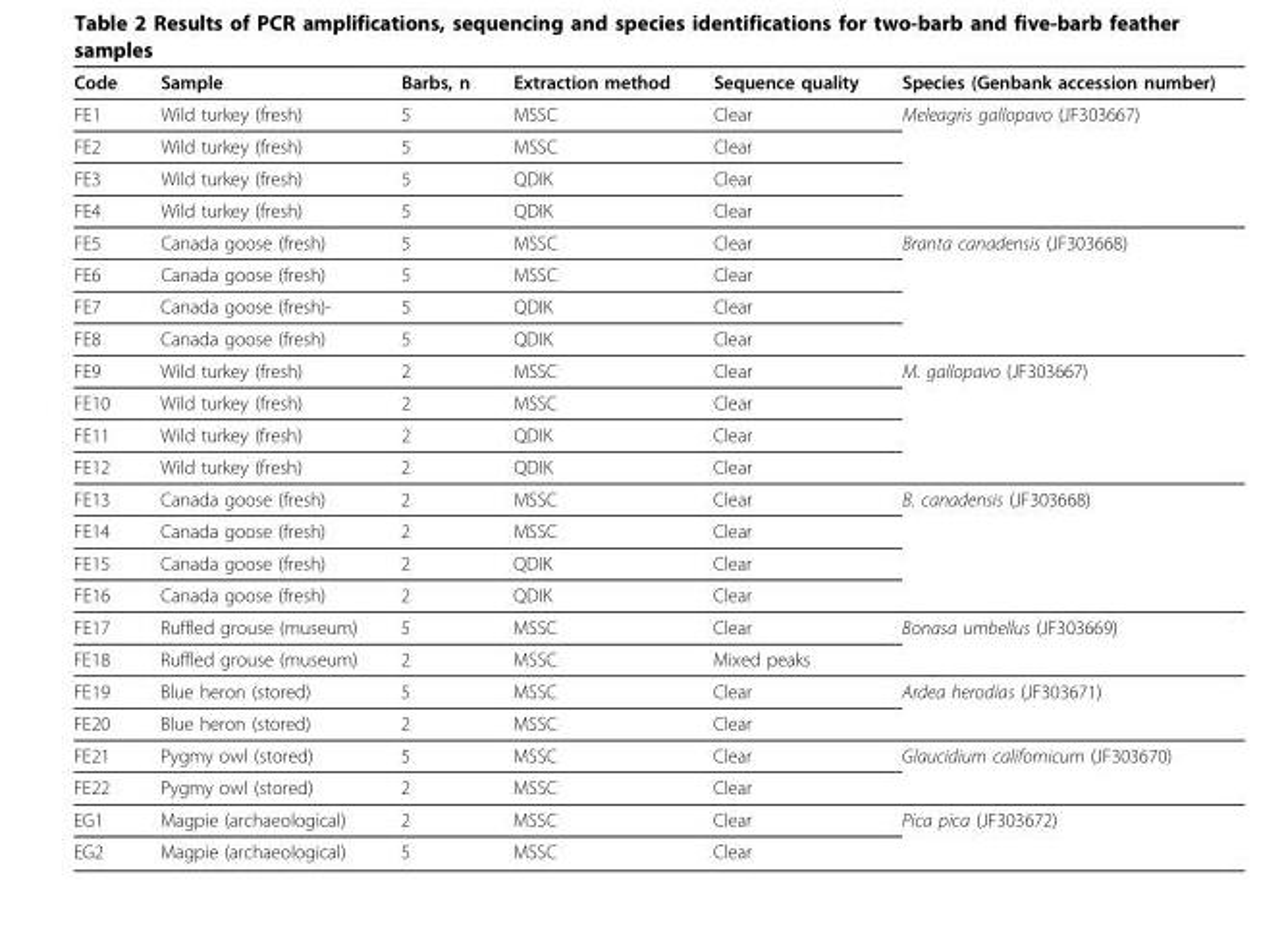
<table><thead><tr><td>Code</td><td>Sample</td><td>Barbs, n</td><td>Extraction method</td><td>Sequence quality</td><td>Species (Genbank accession number)</td></tr></thead><tbody><tr><td>FE1</td><td>Wild turkey (fresh)</td><td>5</td><td>MSSC</td><td>Clear</td><td>Meleagris gallopavo (JF303667)</td></tr><tr><td>FE2</td><td>Wild turkey (fresh)</td><td>5</td><td>MSSC</td><td>Clear</td><td></td></tr><tr><td>FE3</td><td>Wild turkey (fresh)</td><td>5</td><td>QDIK</td><td>Clear</td><td></td></tr><tr><td>FE4</td><td>Wild turkey (fresh)</td><td>5</td><td>QDIK</td><td>Clear</td><td></td></tr><tr><td>FE5</td><td>Canada goose (fresh)</td><td>5</td><td>MSSC</td><td>Clear</td><td>Branta canadensis (JF303668)</td></tr><tr><td>FE6</td><td>Canada goose (fresh)</td><td>5</td><td>MSSC</td><td>Clear</td><td></td></tr><tr><td>FE7</td><td>Canada goose (fresh)-</td><td>5</td><td>QDIK</td><td>Clear</td><td></td></tr><tr><td>FE8</td><td>Canada goose (fresh)</td><td>5</td><td>QDIK</td><td>Clear</td><td></td></tr><tr><td>FE9</td><td>Wild turkey (fresh)</td><td>2</td><td>MSSC</td><td>Clear</td><td>M. gallopavo (JF303667)</td></tr><tr><td>FE10</td><td>Wild turkey (fresh)</td><td>2</td><td>MSSC</td><td>Clear</td><td></td></tr><tr><td>FE11</td><td>Wild turkey (fresh)</td><td>2</td><td>QDIK</td><td>Clear</td><td></td></tr><tr><td>FE12</td><td>Wild turkey (fresh)</td><td>2</td><td>QDIK</td><td>Clear</td><td></td></tr><tr><td>FE13</td><td>Canada goose (fresh)</td><td>2</td><td>MSSC</td><td>Clear</td><td>B. canadensis (JF303668)</td></tr><tr><td>FE14</td><td>Canada goose (fresh)</td><td>2</td><td>MSSC</td><td>Clear</td><td></td></tr><tr><td>FE15</td><td>Canada goose (fresh)</td><td>2</td><td>QDIK</td><td>Clear</td><td></td></tr><tr><td>FE16</td><td>Canada goose (fresh)</td><td>2</td><td>QDIK</td><td>Clear</td><td></td></tr><tr><td>FE17</td><td>Ruffled grouse (museum)</td><td>5</td><td>MSSC</td><td>Clear</td><td>Bonasa umbellus (JF303669)</td></tr><tr><td>FE18</td><td>Ruffled grouse (museum)</td><td>2</td><td>MSSC</td><td>Mixed peaks</td><td></td></tr><tr><td>FE19</td><td>Blue heron (stored)</td><td>5</td><td>MSSC</td><td>Clear</td><td>Ardea herodias (JF303671)</td></tr><tr><td>FE20</td><td>Blue heron (stored)</td><td>2</td><td>MSSC</td><td>Clear</td><td></td></tr><tr><td>FE21</td><td>Pygmy owl (stored)</td><td>5</td><td>MSSC</td><td>Clear</td><td>Glaucidium californicum (JF303670)</td></tr><tr><td>FE22</td><td>Pygmy owl (stored)</td><td>2</td><td>MSSC</td><td>Clear</td><td></td></tr><tr><td>EG1</td><td>Magpie (archaeological)</td><td>2</td><td>MSSC</td><td>Clear</td><td>Pica pica (JF303672)</td></tr><tr><td>EG2</td><td>Magpie (archaeological)</td><td>5</td><td>MSSC</td><td>Clear</td><td></td></tr></tbody></table>